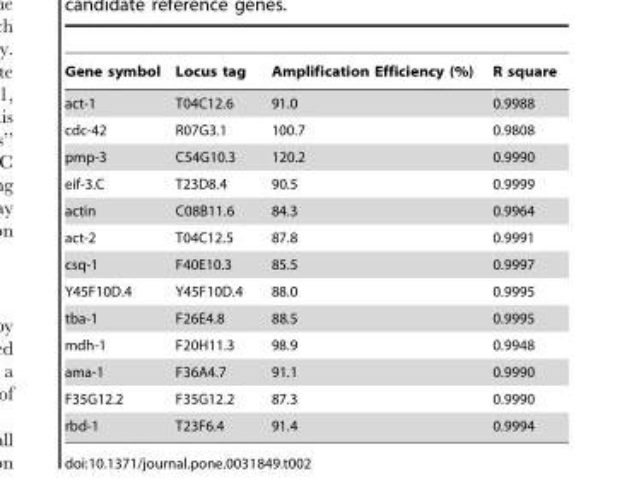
<table><thead><tr><td>Gene symbol</td><td>Locus tag</td><td>Amplification Efficiency (%)</td><td>R square</td></tr></thead><tbody><tr><td>act-1</td><td>T04C12.6</td><td>91.0</td><td>0.9988</td></tr><tr><td>cdc-42</td><td>R07G3.1</td><td>100.7</td><td>0.9808</td></tr><tr><td>pmp-3</td><td>C54G10.3</td><td>120.2</td><td>0.9990</td></tr><tr><td>eif-3.C</td><td>T23D8.4</td><td>90.5</td><td>0.9999</td></tr><tr><td>actin</td><td>C08B11.6</td><td>84.3</td><td>0.9964</td></tr><tr><td>act-2</td><td>T04C12.5</td><td>87.8</td><td>0.9991</td></tr><tr><td>csq-1</td><td>F40E10.3</td><td>85.5</td><td>0.9997</td></tr><tr><td>Y45F10D.4</td><td>Y45F10D.4</td><td>88.0</td><td>0.9995</td></tr><tr><td>tba-1</td><td>F26E4.8</td><td>88.5</td><td>0.9995</td></tr><tr><td>mdh-1</td><td>F20H11.3</td><td>98.9</td><td>0.9948</td></tr><tr><td>ama-1</td><td>F36A4.7</td><td>91.1</td><td>0.9990</td></tr><tr><td>F35G12.2</td><td>F35G12.2</td><td>87.3</td><td>0.9990</td></tr><tr><td>rbd-1</td><td>T23F6.4</td><td>91.4</td><td>0.9994</td></tr></tbody></table>